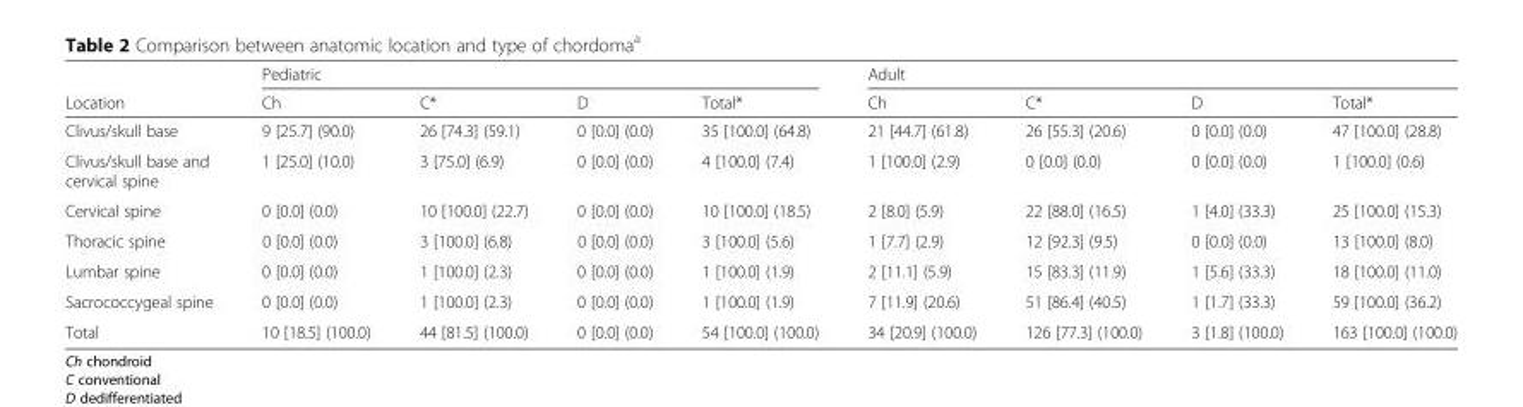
<table><thead><tr><td rowspan="2">Location</td><td colspan="4">Pediatric</td><td colspan="4">Adult</td></tr><tr><td>Ch</td><td>C*</td><td>D</td><td>Total*</td><td>Ch</td><td>C*</td><td>D</td><td>Total*</td></tr></thead><tbody><tr><td>Clivus/skull base</td><td>9 [25.7] (90.0)</td><td>26 [74.3] (59.1)</td><td>0 [0.0] (0.0)</td><td>35 [100.0] (64.8)</td><td>21 [44.7] (61.8)</td><td>26 [55.3] (20.6)</td><td>0 [0.0] (0.0)</td><td>47 [100.0] (28.8)</td></tr><tr><td>Clivus/skull base and cervical spine</td><td>1 [25.0] (10.0)</td><td>3 [75.0] (6.9)</td><td>0 [0.0] (0.0)</td><td>4 [100.0] (7.4)</td><td>1 [100.0] (2.9)</td><td>0 [0.0] (0.0)</td><td>0 [0.0] (0.0)</td><td>1 [100.0] (0.6)</td></tr><tr><td>Cervical spine</td><td>0 [0.0] (0.0)</td><td>10 [100.0] (22.7)</td><td>0 [0.0] (0.0)</td><td>10 [100.0] (18.5)</td><td>2 [8.0] (5.9)</td><td>22 [88.0] (16.5)</td><td>1 [4.0] (33.3)</td><td>25 [100.0] (15.3)</td></tr><tr><td>Thoracic spine</td><td>0 [0.0] (0.0)</td><td>3 [100.0] (6.8)</td><td>0 [0.0] (0.0)</td><td>3 [100.0] (5.6)</td><td>1 [7.7] (2.9)</td><td>12 [92.3] (9.5)</td><td>0 [0.0] (0.0)</td><td>13 [100.0] (8.0)</td></tr><tr><td>Lumbar spine</td><td>0 [0.0] (0.0)</td><td>1 [100.0] (2.3)</td><td>0 [0.0] (0.0)</td><td>1 [100.0] (1.9)</td><td>2 [11.1] (5.9)</td><td>15 [83.3] (11.9)</td><td>1 [5.6] (33.3)</td><td>18 [100.0] (11.0)</td></tr><tr><td>Sacrococcygeal spine</td><td>0 [0.0] (0.0)</td><td>1 [100.0] (2.3)</td><td>0 [0.0] (0.0)</td><td>1 [100.0] (1.9)</td><td>7 [11.9] (20.6)</td><td>51 [86.4] (40.5)</td><td>1 [1.7] (33.3)</td><td>59 [100.0] (36.2)</td></tr><tr><td>Total</td><td>10 [18.5] (100.0)</td><td>44 [81.5] (100.0)</td><td>0 [0.0] (0.0)</td><td>54 [100.0] (100.0)</td><td>34 [20.9] (100.0)</td><td>126 [77.3] (100.0)</td><td>3 [1.8] (100.0)</td><td>163 [100.0] (100.0)</td></tr></tbody></table>